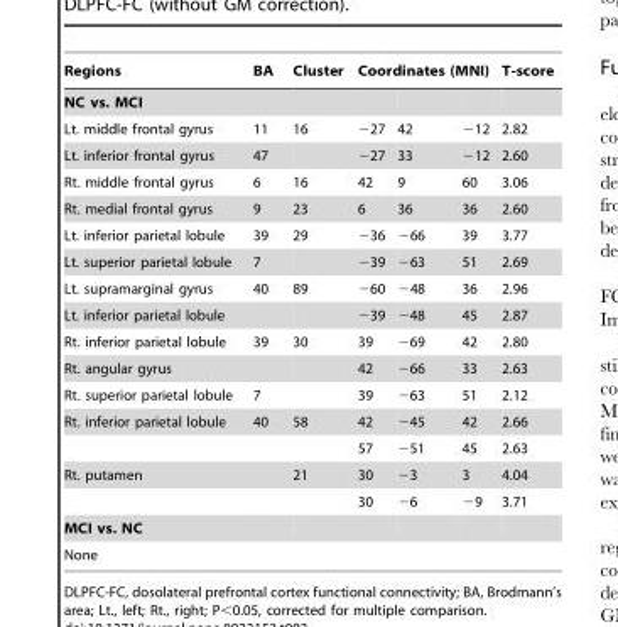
<table><thead><tr><td>Regions</td><td>BA</td><td>Cluster</td><td colspan="3">Coordinates (MNI)</td><td rowspan="2">T-score</td></tr><tr><td colspan="3">NC vs. MCI</td><td></td><td></td><td></td></tr></thead><tbody><tr><td>Lt. middle frontal gyrus</td><td>11</td><td>16</td><td>−27</td><td>42</td><td>−12</td><td>2.82</td></tr><tr><td>Lt. inferior frontal gyrus</td><td>47</td><td></td><td>−27</td><td>33</td><td>−12</td><td>2.60</td></tr><tr><td>Rt. middle frontal gyrus</td><td>6</td><td>16</td><td>42</td><td>9</td><td>60</td><td>3.06</td></tr><tr><td>Rt. medial frontal gyrus</td><td>9</td><td>23</td><td>6</td><td>36</td><td>36</td><td>2.60</td></tr><tr><td>Lt. inferior parietal lobule</td><td>39</td><td>29</td><td>−36</td><td>−66</td><td>39</td><td>3.77</td></tr><tr><td>Lt. superior parietal lobule</td><td>7</td><td></td><td>−39</td><td>−63</td><td>51</td><td>2.69</td></tr><tr><td>Lt. supramarginal gyrus</td><td>40</td><td>89</td><td>−60</td><td>−48</td><td>36</td><td>2.96</td></tr><tr><td>Lt. inferior parietal lobule</td><td></td><td></td><td>−39</td><td>−48</td><td>45</td><td>2.87</td></tr><tr><td>Rt. inferior parietal lobule</td><td>39</td><td>30</td><td>39</td><td>−69</td><td>42</td><td>2.80</td></tr><tr><td>Rt. angular gyrus</td><td></td><td></td><td>42</td><td>−66</td><td>33</td><td>2.63</td></tr><tr><td>Rt. superior parietal lobule</td><td>7</td><td></td><td>39</td><td>−63</td><td>51</td><td>2.12</td></tr><tr><td rowspan="2">Rt. inferior parietal lobule</td><td>40</td><td>58</td><td>42</td><td>−45</td><td>42</td><td>2.66</td></tr><tr><td></td><td></td><td>57</td><td>−51</td><td>45</td><td>2.63</td></tr><tr><td rowspan="2">Rt. putamen</td><td></td><td>21</td><td>30</td><td>−3</td><td>3</td><td>4.04</td></tr><tr><td></td><td></td><td>30</td><td>−6</td><td>−9</td><td>3.71</td></tr><tr><td colspan="7">MCI vs. NC</td></tr><tr><td>None</td><td></td><td></td><td></td><td></td><td></td><td></td></tr></tbody></table>